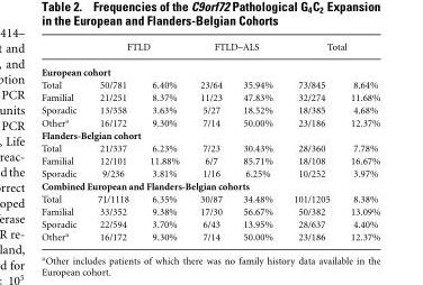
<table><thead><tr><td></td><td colspan="2">FTLD</td><td colspan="2">FTLD–ALS</td><td colspan="2">Total</td></tr><tr><td colspan="7">European cohort</td></tr><tr><td>Total</td><td>50/781</td><td>6.40%</td><td>23/64</td><td>35.94%</td><td>73/845</td><td>8.64%</td></tr></thead><tbody><tr><td>Familial</td><td>21/251</td><td>8.37%</td><td>11/23</td><td>47.83%</td><td>32/274</td><td>11.68%</td></tr><tr><td>Sporadic</td><td>13/358</td><td>3.63%</td><td>5/27</td><td>18.52%</td><td>18/385</td><td>4.68%</td></tr><tr><td>Other<sup>a</sup></td><td>16/172</td><td>9.30%</td><td>7/14</td><td>50.00%</td><td>23/186</td><td>12.37%</td></tr><tr><td colspan="7">Flanders-Belgian cohort</td></tr><tr><td>Total</td><td>21/337</td><td>6.23%</td><td>7/23</td><td>30.43%</td><td>28/360</td><td>7.78%</td></tr><tr><td>Familial</td><td>12/101</td><td>11.88%</td><td>6/7</td><td>85.71%</td><td>18/108</td><td>16.67%</td></tr><tr><td>Sporadic</td><td>9/236</td><td>3.81%</td><td>1/16</td><td>6.25%</td><td>10/252</td><td>3.97%</td></tr><tr><td colspan="7">Combined European and Flanders-Belgian cohorts</td></tr><tr><td>Total</td><td>71/1118</td><td>6.35%</td><td>30/87</td><td>34.48%</td><td>101/1205</td><td>8.38%</td></tr><tr><td>Familial</td><td>33/352</td><td>9.38%</td><td>17/30</td><td>56.67%</td><td>50/382</td><td>13.09%</td></tr><tr><td>Sporadic</td><td>22/594</td><td>3.70%</td><td>6/43</td><td>13.95%</td><td>28/637</td><td>4.40%</td></tr><tr><td>Other<sup>a</sup></td><td>16/172</td><td>9.30%</td><td>7/14</td><td>50.00%</td><td>23/186</td><td>12.37%</td></tr></tbody></table>